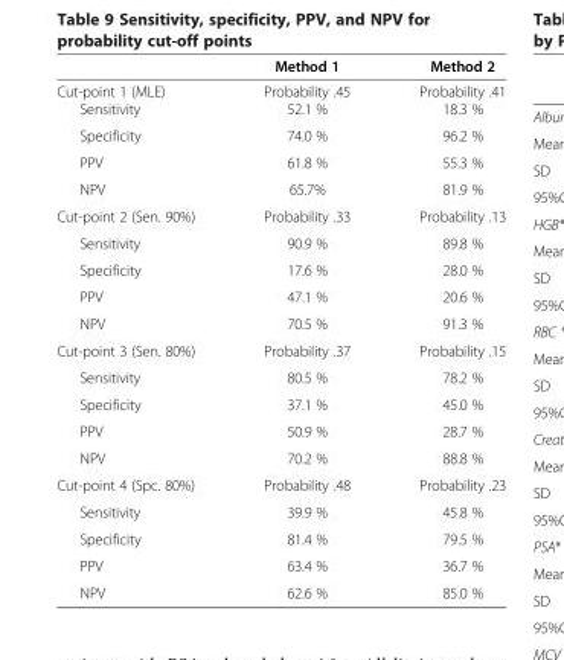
<table><thead><tr><td rowspan="2">Cut-point 1 (MLE)</td><td rowspan="2">Method 1 Probability .45</td><td rowspan="2">Method 2 Probability .41</td></tr><tr></tr></thead><tbody><tr><td>Sensitivity</td><td>52.1 %</td><td>18.3 %</td></tr><tr><td>Specificity</td><td>74.0 %</td><td>96.2 %</td></tr><tr><td>PPV</td><td>61.8 %</td><td>55.3 %</td></tr><tr><td>NPV</td><td>65.7%</td><td>81.9 %</td></tr><tr><td>Cut-point 2 (Sen. 90%)</td><td>Probability .33</td><td>Probability .13</td></tr><tr><td>Sensitivity</td><td>90.9 %</td><td>89.8 %</td></tr><tr><td>Specificity</td><td>17.6 %</td><td>28.0 %</td></tr><tr><td>PPV</td><td>47.1 %</td><td>20.6 %</td></tr><tr><td>NPV</td><td>70.5 %</td><td>91.3 %</td></tr><tr><td>Cut-point 3 (Sen. 80%)</td><td>Probability .37</td><td>Probability .15</td></tr><tr><td>Sensitivity</td><td>80.5 %</td><td>78.2 %</td></tr><tr><td>Specificity</td><td>37.1 %</td><td>45.0 %</td></tr><tr><td>PPV</td><td>50.9 %</td><td>28.7 %</td></tr><tr><td>NPV</td><td>70.2 %</td><td>88.8 %</td></tr><tr><td>Cut-point 4 (Spc. 80%)</td><td>Probability .48</td><td>Probability .23</td></tr><tr><td>Sensitivity</td><td>39.9 %</td><td>45.8 %</td></tr><tr><td>Specificity</td><td>81.4 %</td><td>79.5 %</td></tr><tr><td>PPV</td><td>63.4 %</td><td>36.7 %</td></tr><tr><td>NPV</td><td>62.6 %</td><td>85.0 %</td></tr></tbody></table>